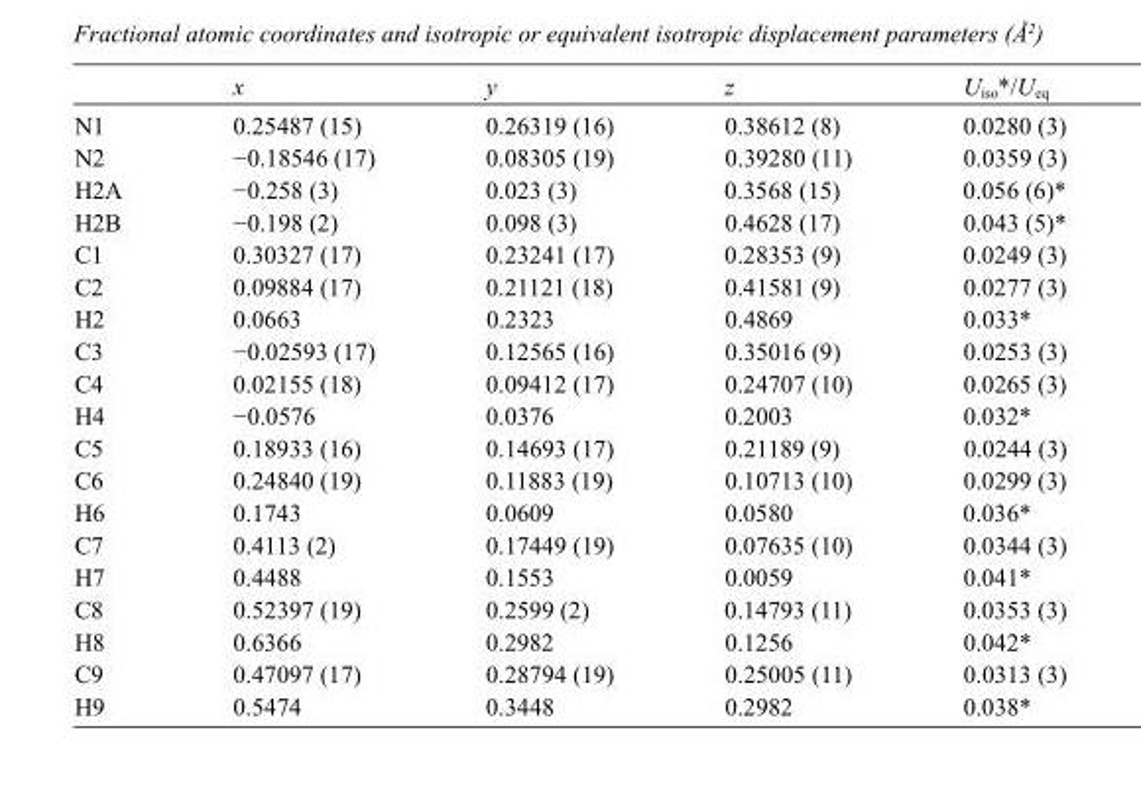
<table><thead><tr><td></td><td>x</td><td>y</td><td>z</td><td>U<sub>iso</sub>*/U<sub>eq</sub></td></tr></thead><tbody><tr><td>N1</td><td>0.25487 (15)</td><td>0.26319 (16)</td><td>0.38612 (8)</td><td>0.0280 (3)</td></tr><tr><td>N2</td><td>−0.18546 (17)</td><td>0.08305 (19)</td><td>0.39280 (11)</td><td>0.0359 (3)</td></tr><tr><td>H2A</td><td>−0.258 (3)</td><td>0.023 (3)</td><td>0.3568 (15)</td><td>0.056 (6)*</td></tr><tr><td>H2B</td><td>−0.198 (2)</td><td>0.098 (3)</td><td>0.4628 (17)</td><td>0.043 (5)*</td></tr><tr><td>C1</td><td>0.30327 (17)</td><td>0.23241 (17)</td><td>0.28353 (9)</td><td>0.0249 (3)</td></tr><tr><td>C2</td><td>0.09884 (17)</td><td>0.21121 (18)</td><td>0.41581 (9)</td><td>0.0277 (3)</td></tr><tr><td>H2</td><td>0.0663</td><td>0.2323</td><td>0.4869</td><td>0.033*</td></tr><tr><td>C3</td><td>−0.02593 (17)</td><td>0.12565 (16)</td><td>0.35016 (9)</td><td>0.0253 (3)</td></tr><tr><td>C4</td><td>0.02155 (18)</td><td>0.09412 (17)</td><td>0.24707 (10)</td><td>0.0265 (3)</td></tr><tr><td>H4</td><td>−0.0576</td><td>0.0376</td><td>0.2003</td><td>0.032*</td></tr><tr><td>C5</td><td>0.18933 (16)</td><td>0.14693 (17)</td><td>0.21189 (9)</td><td>0.0244 (3)</td></tr><tr><td>C6</td><td>0.24840 (19)</td><td>0.11883 (19)</td><td>0.10713 (10)</td><td>0.0299 (3)</td></tr><tr><td>H6</td><td>0.1743</td><td>0.0609</td><td>0.0580</td><td>0.036*</td></tr><tr><td>C7</td><td>0.4113 (2)</td><td>0.17449 (19)</td><td>0.07635 (10)</td><td>0.0344 (3)</td></tr><tr><td>H7</td><td>0.4488</td><td>0.1553</td><td>0.0059</td><td>0.041*</td></tr><tr><td>C8</td><td>0.52397 (19)</td><td>0.2599 (2)</td><td>0.14793 (11)</td><td>0.0353 (3)</td></tr><tr><td>H8</td><td>0.6366</td><td>0.2982</td><td>0.1256</td><td>0.042*</td></tr><tr><td>C9</td><td>0.47097 (17)</td><td>0.28794 (19)</td><td>0.25005 (11)</td><td>0.0313 (3)</td></tr><tr><td>H9</td><td>0.5474</td><td>0.3448</td><td>0.2982</td><td>0.038*</td></tr></tbody></table>